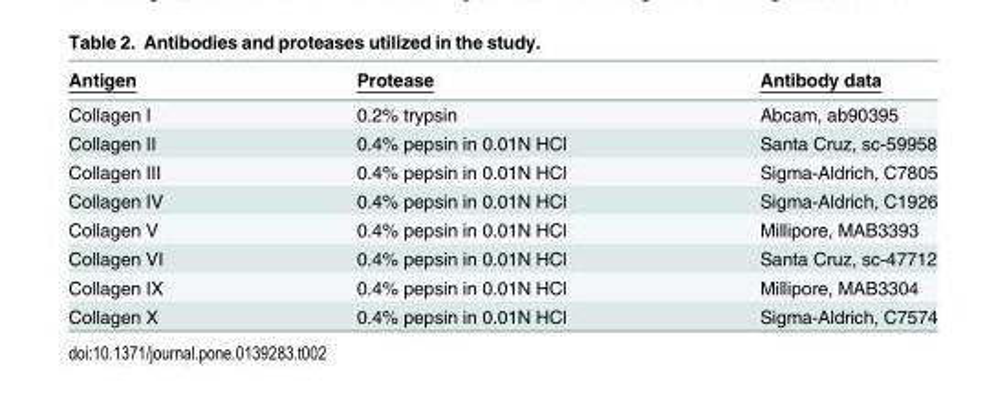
<table><thead><tr><td>Antigen</td><td>Protease</td><td>Antibody data</td></tr></thead><tbody><tr><td>Collagen I</td><td>0.2% trypsin</td><td>Abcam, ab90395</td></tr><tr><td>Collagen II</td><td>0.4% pepsin in 0.01N HCl</td><td>Santa Cruz, sc-59958</td></tr><tr><td>Collagen III</td><td>0.4% pepsin in 0.01N HCl</td><td>Sigma-Aldrich, C7805</td></tr><tr><td>Collagen IV</td><td>0.4% pepsin in 0.01N HCl</td><td>Sigma-Aldrich, C1926</td></tr><tr><td>Collagen V</td><td>0.4% pepsin in 0.01N HCl</td><td>Millipore, MAB3393</td></tr><tr><td>Collagen VI</td><td>0.4% pepsin in 0.01N HCl</td><td>Santa Cruz, sc-47712</td></tr><tr><td>Collagen IX</td><td>0.4% pepsin in 0.01N HCl</td><td>Millipore, MAB3304</td></tr><tr><td>Collagen X</td><td>0.4% pepsin in 0.01N HCl</td><td>Sigma-Aldrich, C7574</td></tr></tbody></table>